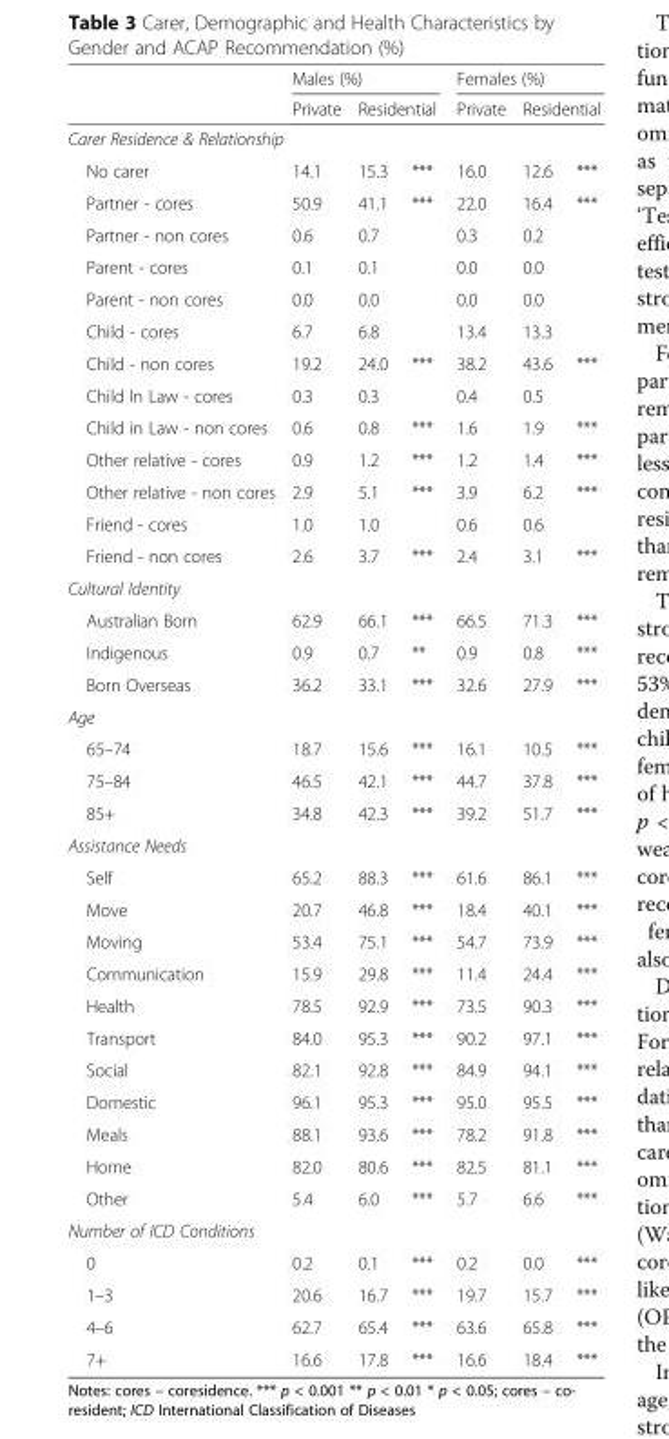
<table><thead><tr><td rowspan="2"></td><td colspan="3">Males (%)</td><td colspan="3">Females (%)</td></tr><tr><td>Private</td><td colspan="2">Residential</td><td>Private</td><td colspan="2">Residential</td></tr><tr><td colspan="7">Carer Residence &amp; Relationship</td></tr><tr><td>No carer</td><td>14.1</td><td>15.3</td><td>***</td><td>16.0</td><td>12.6</td><td>***</td></tr></thead><tbody><tr><td>Partner - cores</td><td>50.9</td><td>41.1</td><td>***</td><td>22.0</td><td>16.4</td><td>***</td></tr><tr><td>Partner - non cores</td><td>0.6</td><td>0.7</td><td></td><td>0.3</td><td>0.2</td><td></td></tr><tr><td>Parent - cores</td><td>0.1</td><td>0.1</td><td></td><td>0.0</td><td>0.0</td><td></td></tr><tr><td>Parent - non cores</td><td>0.0</td><td>0.0</td><td></td><td>0.0</td><td>0.0</td><td></td></tr><tr><td>Child - cores</td><td>6.7</td><td>6.8</td><td></td><td>13.4</td><td>13.3</td><td></td></tr><tr><td>Child - non cores</td><td>19.2</td><td>24.0</td><td>***</td><td>38.2</td><td>43.6</td><td>***</td></tr><tr><td>Child In Law - cores</td><td>0.3</td><td>0.3</td><td></td><td>0.4</td><td>0.5</td><td></td></tr><tr><td>Child in Law - non cores</td><td>0.6</td><td>0.8</td><td>***</td><td>1.6</td><td>1.9</td><td>***</td></tr><tr><td>Other relative - cores</td><td>0.9</td><td>1.2</td><td>***</td><td>1.2</td><td>1.4</td><td>***</td></tr><tr><td>Other relative - non cores</td><td>2.9</td><td>5.1</td><td>***</td><td>3.9</td><td>6.2</td><td>***</td></tr><tr><td>Friend - cores</td><td>1.0</td><td>1.0</td><td></td><td>0.6</td><td>0.6</td><td></td></tr><tr><td>Friend - non cores</td><td>2.6</td><td>3.7</td><td>***</td><td>2.4</td><td>3.1</td><td>***</td></tr><tr><td colspan="7">Cultural Identity</td></tr><tr><td>Australian Born</td><td>62.9</td><td>66.1</td><td>***</td><td>66.5</td><td>71.3</td><td>***</td></tr><tr><td>Indigenous</td><td>0.9</td><td>0.7</td><td>**</td><td>0.9</td><td>0.8</td><td>***</td></tr><tr><td>Born Overseas</td><td>36.2</td><td>33.1</td><td>***</td><td>32.6</td><td>27.9</td><td>***</td></tr><tr><td colspan="7">Age</td></tr><tr><td>65–74</td><td>18.7</td><td>15.6</td><td>***</td><td>16.1</td><td>10.5</td><td>***</td></tr><tr><td>75–84</td><td>46.5</td><td>42.1</td><td>***</td><td>44.7</td><td>37.8</td><td>***</td></tr><tr><td>85+</td><td>34.8</td><td>42.3</td><td>***</td><td>39.2</td><td>51.7</td><td>***</td></tr><tr><td colspan="7">Assistance Needs</td></tr><tr><td>Self</td><td>65.2</td><td>88.3</td><td>***</td><td>61.6</td><td>86.1</td><td>***</td></tr><tr><td>Move</td><td>20.7</td><td>46.8</td><td>***</td><td>18.4</td><td>40.1</td><td>***</td></tr><tr><td>Moving</td><td>53.4</td><td>75.1</td><td>***</td><td>54.7</td><td>73.9</td><td>***</td></tr><tr><td>Communication</td><td>15.9</td><td>29.8</td><td>***</td><td>11.4</td><td>24.4</td><td>***</td></tr><tr><td>Health</td><td>78.5</td><td>92.9</td><td>***</td><td>73.5</td><td>90.3</td><td>***</td></tr><tr><td>Transport</td><td>84.0</td><td>95.3</td><td>***</td><td>90.2</td><td>97.1</td><td>***</td></tr><tr><td>Social</td><td>82.1</td><td>92.8</td><td>***</td><td>84.9</td><td>94.1</td><td>***</td></tr><tr><td>Domestic</td><td>96.1</td><td>95.3</td><td>***</td><td>95.0</td><td>95.5</td><td>***</td></tr><tr><td>Meals</td><td>88.1</td><td>93.6</td><td>***</td><td>78.2</td><td>91.8</td><td>***</td></tr><tr><td>Home</td><td>82.0</td><td>80.6</td><td>***</td><td>82.5</td><td>81.1</td><td>***</td></tr><tr><td>Other</td><td>5.4</td><td>6.0</td><td>***</td><td>5.7</td><td>6.6</td><td>***</td></tr><tr><td colspan="7">Number of ICD Conditions</td></tr><tr><td>0</td><td>0.2</td><td>0.1</td><td>***</td><td>0.2</td><td>0.0</td><td>***</td></tr><tr><td>1–3</td><td>20.6</td><td>16.7</td><td>***</td><td>19.7</td><td>15.7</td><td>***</td></tr><tr><td>4–6</td><td>62.7</td><td>65.4</td><td>***</td><td>63.6</td><td>65.8</td><td>***</td></tr><tr><td>7+</td><td>16.6</td><td>17.8</td><td>***</td><td>16.6</td><td>18.4</td><td>***</td></tr></tbody></table>